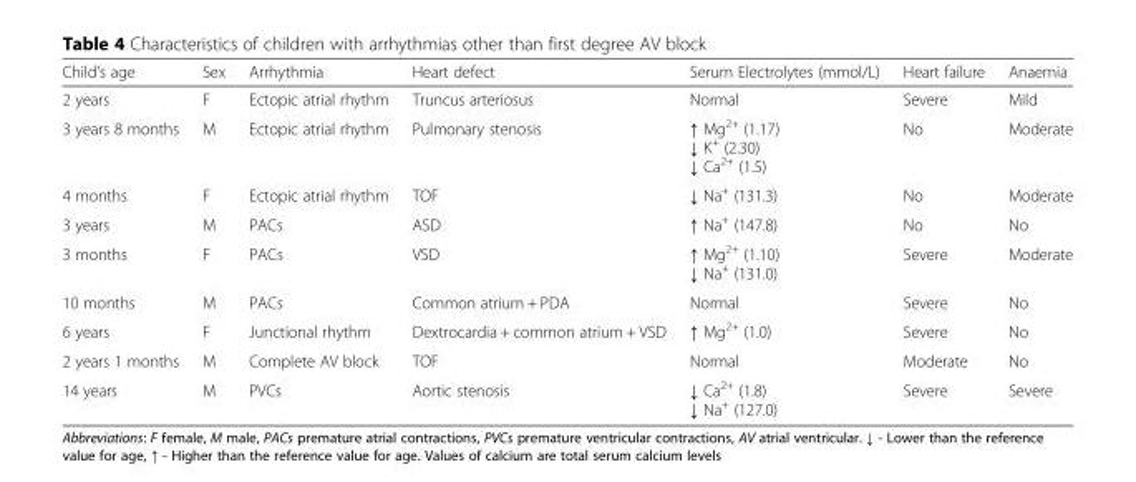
<table><thead><tr><td>Child’s age</td><td>Sex</td><td>Arrhythmia</td><td>Heart defect</td><td>Serum Electrolytes (mmol/L)</td><td>Heart failure</td><td>Anaemia</td></tr></thead><tbody><tr><td>2 years</td><td>F</td><td>Ectopic atrial rhythm</td><td>Truncus arteriosus</td><td>Normal</td><td>Severe</td><td>Mild</td></tr><tr><td>3 years 8 months</td><td>M</td><td>Ectopic atrial rhythm</td><td>Pulmonary stenosis</td><td>↑ Mg<sup>2+</sup> (1.17) ↓ K<sup>+</sup> (2.30) ↓ Ca<sup>2+</sup> (1.5)</td><td>No</td><td>Moderate</td></tr><tr><td>4 months</td><td>F</td><td>Ectopic atrial rhythm</td><td>TOF</td><td>↓ Na<sup>+</sup> (131.3)</td><td>No</td><td>Moderate</td></tr><tr><td>3 years</td><td>M</td><td>PACs</td><td>ASD</td><td>↑ Na<sup>+</sup> (147.8)</td><td>No</td><td>No</td></tr><tr><td>3 months</td><td>F</td><td>PACs</td><td>VSD</td><td>↑ Mg<sup>2+</sup> (1.10) ↓ Na<sup>+</sup> (131.0)</td><td>Severe</td><td>Moderate</td></tr><tr><td>10 months</td><td>M</td><td>PACs</td><td>Common atrium + PDA</td><td>Normal</td><td>Severe</td><td>No</td></tr><tr><td>6 years</td><td>F</td><td>Junctional rhythm</td><td>Dextrocardia + common atrium + VSD</td><td>↑ Mg<sup>2+</sup> (1.0)</td><td>Severe</td><td>No</td></tr><tr><td>2 years 1 months</td><td>M</td><td>Complete AV block</td><td>TOF</td><td>Normal</td><td>Moderate</td><td>No</td></tr><tr><td>14 years</td><td>M</td><td>PVCs</td><td>Aortic stenosis</td><td>↓ Ca<sup>2+</sup> (1.8) ↓ Na<sup>+</sup> (127.0)</td><td>Severe</td><td>Severe</td></tr></tbody></table>